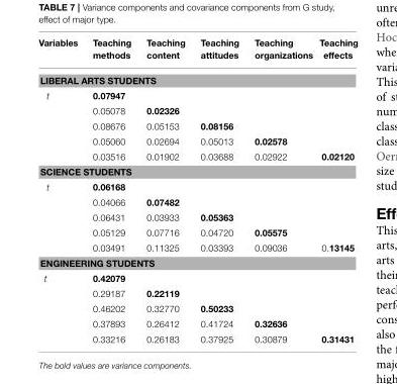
<table><thead><tr><td>Variables</td><td>Teaching methods</td><td>Teaching content</td><td>Teaching attitudes</td><td>Teaching organizations</td><td>Teaching effects</td></tr></thead><tbody><tr><td colspan="6">LIBERAL ARTS STUDENTS</td></tr><tr><td rowspan="5">t</td><td>0.07947</td><td></td><td></td><td></td><td></td></tr><tr><td>0.05078</td><td>0.02326</td><td></td><td></td><td></td></tr><tr><td>0.08676</td><td>0.05153</td><td>0.08156</td><td></td><td></td></tr><tr><td>0.05060</td><td>0.02694</td><td>0.05013</td><td>0.02578</td><td></td></tr><tr><td>0.03516</td><td>0.01902</td><td>0.03688</td><td>0.02922</td><td>0.02120</td></tr><tr><td colspan="6">SCIENCE STUDENTS</td></tr><tr><td rowspan="5">t</td><td>0.06168</td><td></td><td></td><td></td><td></td></tr><tr><td>0.04066</td><td>0.07482</td><td></td><td></td><td></td></tr><tr><td>0.06431</td><td>0.03933</td><td>0.05363</td><td></td><td></td></tr><tr><td>0.05129</td><td>0.07716</td><td>0.04720</td><td>0.05575</td><td></td></tr><tr><td>0.03491</td><td>0.11325</td><td>0.03393</td><td>0.09036</td><td>0.13145</td></tr><tr><td colspan="6">ENGINEERING STUDENTS</td></tr><tr><td rowspan="5">t</td><td>0.42079</td><td></td><td></td><td></td><td></td></tr><tr><td>0.29187</td><td>0.22119</td><td></td><td></td><td></td></tr><tr><td>0.46202</td><td>0.32770</td><td>0.50233</td><td></td><td></td></tr><tr><td>0.37893</td><td>0.26412</td><td>0.41724</td><td>0.32636</td><td></td></tr><tr><td>0.33216</td><td>0.26183</td><td>0.37925</td><td>0.30879</td><td>0.31431</td></tr></tbody></table>